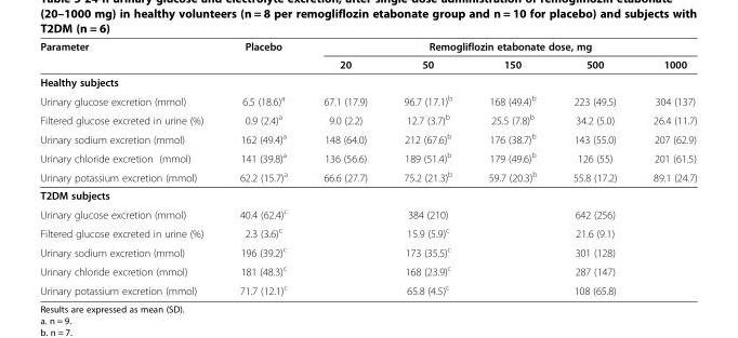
<table><thead><tr><td rowspan="2">Parameter</td><td rowspan="2">Placebo</td><td colspan="5">Remogliflozin etabonate dose, mg</td></tr><tr><td>20</td><td>50</td><td>150</td><td>500</td><td>1000</td></tr></thead><tbody><tr><td colspan="7">Healthy subjects</td></tr><tr><td>Urinary glucose excretion (mmol)</td><td>6.5 (18.6)<sup>a</sup></td><td>67.1 (17.9)</td><td>96.7 (17.1)<sup>b</sup></td><td>168 (49.4)<sup>b</sup></td><td>223 (49.5)</td><td>304 (137)</td></tr><tr><td>Filtered glucose excreted in urine (%)</td><td>0.9 (2.4)<sup>a</sup></td><td>9.0 (2.2)</td><td>12.7 (3.7)<sup>b</sup></td><td>25.5 (7.8)<sup>b</sup></td><td>34.2 (5.0)</td><td>26.4 (11.7)</td></tr><tr><td>Urinary sodium excretion (mmol)</td><td>162 (49.4)<sup>a</sup></td><td>148 (64.0)</td><td>212 (67.6)<sup>b</sup></td><td>176 (38.7)<sup>b</sup></td><td>143 (55.0)</td><td>207 (62.9)</td></tr><tr><td>Urinary chloride excretion (mmol)</td><td>141 (39.8)<sup>a</sup></td><td>136 (56.6)</td><td>189 (51.4)<sup>b</sup></td><td>179 (49.6)<sup>b</sup></td><td>126 (55)</td><td>201 (61.5)</td></tr><tr><td>Urinary potassium excretion (mmol)</td><td>62.2 (15.7)<sup>a</sup></td><td>66.6 (27.7)</td><td>75.2 (21.3)<sup>b</sup></td><td>59.7 (20.3)<sup>b</sup></td><td>55.8 (17.2)</td><td>89.1 (24.7)</td></tr><tr><td colspan="7">T2DM subjects</td></tr><tr><td>Urinary glucose excretion (mmol)</td><td>40.4 (62.4)<sup>c</sup></td><td></td><td>384 (210)</td><td></td><td>642 (256)</td><td></td></tr><tr><td>Filtered glucose excreted in urine (%)</td><td>2.3 (3.6)<sup>c</sup></td><td></td><td>15.9 (5.9)<sup>c</sup></td><td></td><td>21.6 (9.1)</td><td></td></tr><tr><td>Urinary sodium excretion (mmol)</td><td>196 (39.2)<sup>c</sup></td><td></td><td>173 (35.5)<sup>c</sup></td><td></td><td>301 (128)</td><td></td></tr><tr><td>Urinary chloride excretion (mmol)</td><td>181 (48.3)<sup>c</sup></td><td></td><td>168 (23.9)<sup>c</sup></td><td></td><td>287 (147)</td><td></td></tr><tr><td>Urinary potassium excretion (mmol)</td><td>71.7 (12.1)<sup>c</sup></td><td></td><td>65.8 (4.5)<sup>c</sup></td><td></td><td>108 (65.8)</td><td></td></tr></tbody></table>